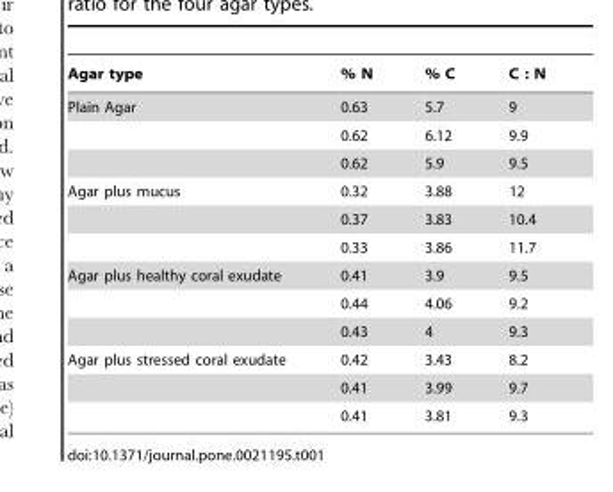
<table><thead><tr><td>Agar type</td><td>% N</td><td>% C</td><td>C : N</td></tr></thead><tbody><tr><td rowspan="3">Plain Agar</td><td>0.63</td><td>5.7</td><td>9</td></tr><tr><td>0.62</td><td>6.12</td><td>9.9</td></tr><tr><td>0.62</td><td>5.9</td><td>9.5</td></tr><tr><td rowspan="3">Agar plus mucus</td><td>0.32</td><td>3.88</td><td>12</td></tr><tr><td>0.37</td><td>3.83</td><td>10.4</td></tr><tr><td>0.33</td><td>3.86</td><td>11.7</td></tr><tr><td rowspan="3">Agar plus healthy coral exudate</td><td>0.41</td><td>3.9</td><td>9.5</td></tr><tr><td>0.44</td><td>4.06</td><td>9.2</td></tr><tr><td>0.43</td><td>4</td><td>9.3</td></tr><tr><td rowspan="3">Agar plus stressed coral exudate</td><td>0.42</td><td>3.43</td><td>8.2</td></tr><tr><td>0.41</td><td>3.99</td><td>9.7</td></tr><tr><td>0.41</td><td>3.81</td><td>9.3</td></tr></tbody></table>